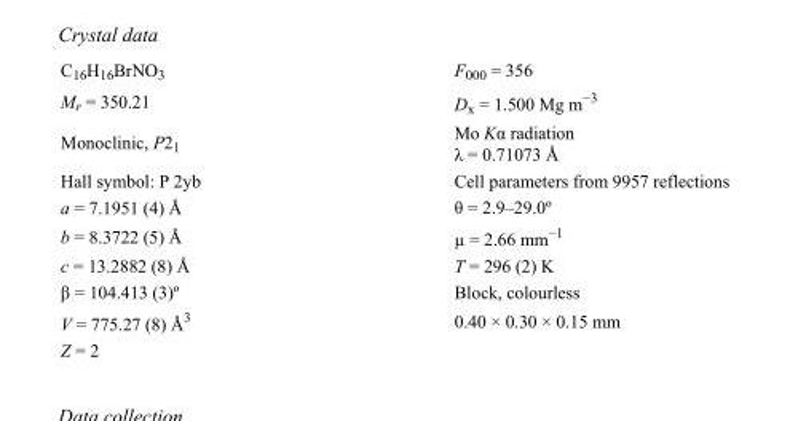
<table><tbody><tr><td>C<sub>16</sub>H<sub>16</sub>BrNO<sub>3</sub></td><td>F000 = 356</td></tr><tr><td>M<sub>r</sub> = 350.21</td><td>D<sub>x</sub> = 1.500 Mg m<sup>−3</sup></td></tr><tr><td>Monoclinic, P2<sub>1</sub></td><td>Mo Kα radiation λ = 0.71073 Å</td></tr><tr><td>Hall symbol: P 2yb</td><td>Cell parameters from 9957 reflections</td></tr><tr><td>a = 7.1951 (4) Å</td><td>θ = 2.9–29.0º</td></tr><tr><td>b = 8.3722 (5) Å</td><td>µ = 2.66 mm<sup>−1</sup></td></tr><tr><td>c = 13.2882 (8) Å</td><td>T = 296 (2) K</td></tr><tr><td>β = 104.413 (3)º</td><td>Block, colourless</td></tr><tr><td>V = 775.27 (8) Å<sup>3</sup></td><td>0.40 × 0.30 × 0.15 mm</td></tr><tr><td>Z = 2</td><td></td></tr></tbody></table>